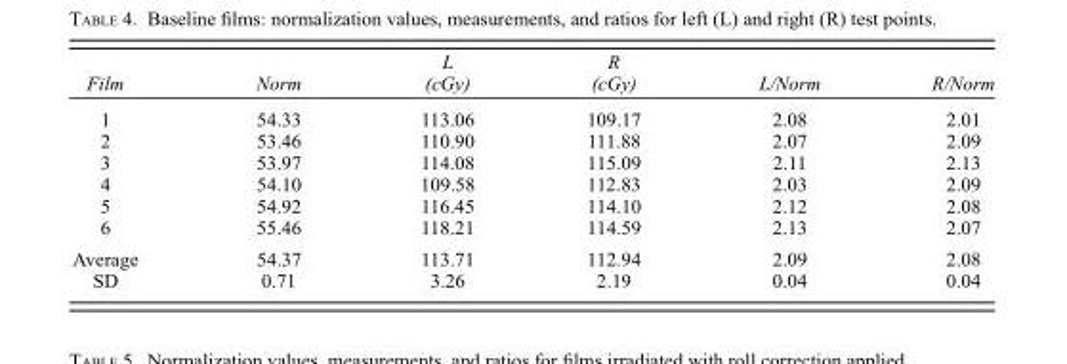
<table><thead><tr><td>Film</td><td>Norm</td><td>(cGy)</td><td>(cGy)</td><td>L/Norm</td><td>R/Norm</td></tr></thead><tbody><tr><td>1</td><td>54.33</td><td>113.06</td><td>109.17</td><td>2.08</td><td>2.01</td></tr><tr><td>2</td><td>53.46</td><td>110.90</td><td>111.88</td><td>2.07</td><td>2.09</td></tr><tr><td>3</td><td>53.97</td><td>114.08</td><td>115.09</td><td>2.11</td><td>2.13</td></tr><tr><td>4</td><td>54.10</td><td>109.58</td><td>112.83</td><td>2.03</td><td>2.09</td></tr><tr><td>5</td><td>54.92</td><td>116.45</td><td>114.10</td><td>2.12</td><td>2.08</td></tr><tr><td>6</td><td>55.46</td><td>118.21</td><td>114.59</td><td>2.13</td><td>2.07</td></tr><tr><td>Average</td><td>54.37</td><td>113.71</td><td>112.94</td><td>2.09</td><td>2.08</td></tr><tr><td>SD</td><td>0.71</td><td>3.26</td><td>2.19</td><td>0.04</td><td>0.04</td></tr></tbody></table>